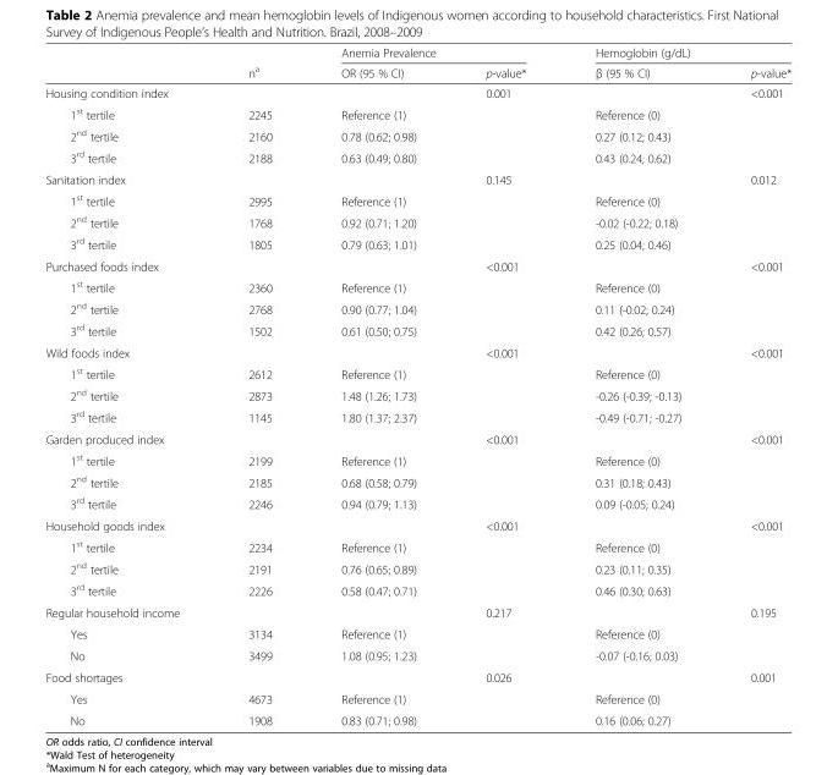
<table><thead><tr><td rowspan="2"></td><td rowspan="2">n<sup>a</sup></td><td colspan="2">Anemia Prevalence</td><td colspan="2">Hemoglobin (g/dL)</td></tr><tr><td>OR (95 % CI)</td><td>p-value*</td><td>β (95 % CI)</td><td>p-value*</td></tr></thead><tbody><tr><td>Housing condition index</td><td></td><td></td><td>0.001</td><td></td><td>&lt;0.001</td></tr><tr><td>1<sup>st</sup> tertile</td><td>2245</td><td>Reference (1)</td><td></td><td>Reference (0)</td><td></td></tr><tr><td>2<sup>nd</sup> tertile</td><td>2160</td><td>0.78 (0.62; 0.98)</td><td></td><td>0.27 (0.12; 0.43)</td><td></td></tr><tr><td>3<sup>rd</sup> tertile</td><td>2188</td><td>0.63 (0.49; 0.80)</td><td></td><td>0.43 (0.24; 0.62)</td><td></td></tr><tr><td>Sanitation index</td><td></td><td></td><td>0.145</td><td></td><td>0.012</td></tr><tr><td>1<sup>st</sup> tertile</td><td>2995</td><td>Reference (1)</td><td></td><td>Reference (0)</td><td></td></tr><tr><td>2<sup>nd</sup> tertile</td><td>1768</td><td>0.92 (0.71; 1.20)</td><td></td><td>-0.02 (-0.22; 0.18)</td><td></td></tr><tr><td>3<sup>rd</sup> tertile</td><td>1805</td><td>0.79 (0.63; 1.01)</td><td></td><td>0.25 (0.04; 0.46)</td><td></td></tr><tr><td>Purchased foods index</td><td></td><td></td><td>&lt;0.001</td><td></td><td>&lt;0.001</td></tr><tr><td>1<sup>st</sup> tertile</td><td>2360</td><td>Reference (1)</td><td></td><td>Reference (0)</td><td></td></tr><tr><td>2<sup>nd</sup> tertile</td><td>2768</td><td>0.90 (0.77; 1.04)</td><td></td><td>0.11 (-0.02; 0.24)</td><td></td></tr><tr><td>3<sup>rd</sup> tertile</td><td>1502</td><td>0.61 (0.50; 0.75)</td><td></td><td>0.42 (0.26; 0.57)</td><td></td></tr><tr><td>Wild foods index</td><td></td><td></td><td>&lt;0.001</td><td></td><td>&lt;0.001</td></tr><tr><td>1<sup>st</sup> tertile</td><td>2612</td><td>Reference (1)</td><td></td><td>Reference (0)</td><td></td></tr><tr><td>2<sup>nd</sup> tertile</td><td>2873</td><td>1.48 (1.26; 1.73)</td><td></td><td>-0.26 (-0.39; -0.13)</td><td></td></tr><tr><td>3<sup>rd</sup> tertile</td><td>1145</td><td>1.80 (1.37; 2.37)</td><td></td><td>-0.49 (-0.71; -0.27)</td><td></td></tr><tr><td>Garden produced index</td><td></td><td></td><td>&lt;0.001</td><td></td><td>&lt;0.001</td></tr><tr><td>1<sup>st</sup> tertile</td><td>2199</td><td>Reference (1)</td><td></td><td>Reference (0)</td><td></td></tr><tr><td>2<sup>nd</sup> tertile</td><td>2185</td><td>0.68 (0.58; 0.79)</td><td></td><td>0.31 (0.18; 0.43)</td><td></td></tr><tr><td>3<sup>rd</sup> tertile</td><td>2246</td><td>0.94 (0.79; 1.13)</td><td></td><td>0.09 (-0.05; 0.24)</td><td></td></tr><tr><td>Household goods index</td><td></td><td></td><td>&lt;0.001</td><td></td><td>&lt;0.001</td></tr><tr><td>1<sup>st</sup> tertile</td><td>2234</td><td>Reference (1)</td><td></td><td>Reference (0)</td><td></td></tr><tr><td>2<sup>nd</sup> tertile</td><td>2191</td><td>0.76 (0.65; 0.89)</td><td></td><td>0.23 (0.11; 0.35)</td><td></td></tr><tr><td>3<sup>rd</sup> tertile</td><td>2226</td><td>0.58 (0.47; 0.71)</td><td></td><td>0.46 (0.30; 0.63)</td><td></td></tr><tr><td>Regular household income</td><td></td><td></td><td>0.217</td><td></td><td>0.195</td></tr><tr><td>Yes</td><td>3134</td><td>Reference (1)</td><td></td><td>Reference (0)</td><td></td></tr><tr><td>No</td><td>3499</td><td>1.08 (0.95; 1.23)</td><td></td><td>-0.07 (-0.16; 0.03)</td><td></td></tr><tr><td>Food shortages</td><td></td><td></td><td>0.026</td><td></td><td>0.001</td></tr><tr><td>Yes</td><td>4673</td><td>Reference (1)</td><td></td><td>Reference (0)</td><td></td></tr><tr><td>No</td><td>1908</td><td>0.83 (0.71; 0.98)</td><td></td><td>0.16 (0.06; 0.27)</td><td></td></tr></tbody></table>